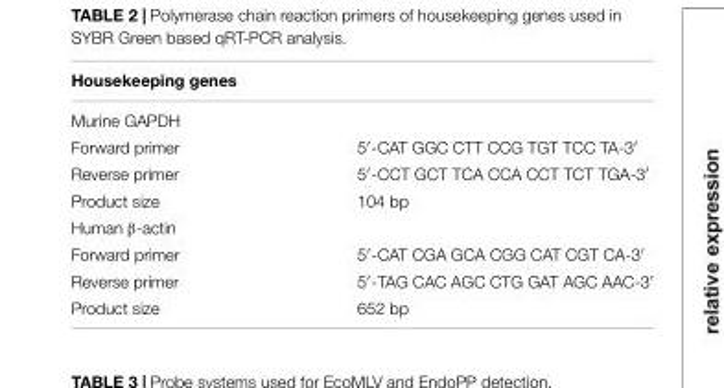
<table><thead><tr><td>Housekeeping genes</td><td></td></tr></thead><tbody><tr><td colspan="2">Murine GAPDH</td></tr><tr><td>Forward primer</td><td>5′-CAT GGC CTT CCG TGT TCC TA-3′</td></tr><tr><td>Reverse primer</td><td>5′-CCT GCT TCA CCA CCT TCT TGA-3′</td></tr><tr><td>Product size</td><td>104 bp</td></tr><tr><td colspan="2">Human β-actin</td></tr><tr><td>Forward primer</td><td>5′-CAT CGA GCA CGG CAT CGT CA-3′</td></tr><tr><td>Reverse primer</td><td>5′-TAG CAC AGC CTG GAT AGC AAC-3′</td></tr><tr><td>Product size</td><td>652 bp</td></tr></tbody></table>